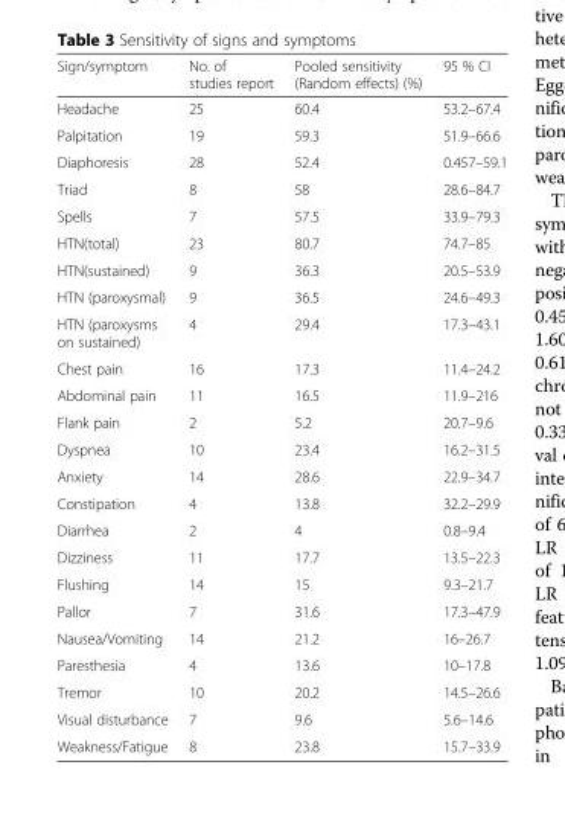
<table><thead><tr><td>Sign/symptom</td><td>No. of studies report</td><td>Pooled sensitivity (Random effects) (%)</td><td>95 % CI</td></tr></thead><tbody><tr><td>Headache</td><td>25</td><td>60.4</td><td>53.2–67.4</td></tr><tr><td>Palpitation</td><td>19</td><td>59.3</td><td>51.9–66.6</td></tr><tr><td>Diaphoresis</td><td>28</td><td>52.4</td><td>0.457–59.1</td></tr><tr><td>Triad</td><td>8</td><td>58</td><td>28.6–84.7</td></tr><tr><td>Spells</td><td>7</td><td>57.5</td><td>33.9–79.3</td></tr><tr><td>HTN(total)</td><td>23</td><td>80.7</td><td>74.7–85</td></tr><tr><td>HTN(sustained)</td><td>9</td><td>36.3</td><td>20.5–53.9</td></tr><tr><td>HTN (paroxysmal)</td><td>9</td><td>36.5</td><td>24.6–49.3</td></tr><tr><td>HTN (paroxysms on sustained)</td><td>4</td><td>29.4</td><td>17.3–43.1</td></tr><tr><td>Chest pain</td><td>16</td><td>17.3</td><td>11.4–24.2</td></tr><tr><td>Abdominal pain</td><td>11</td><td>16.5</td><td>11.9–216</td></tr><tr><td>Flank pain</td><td>2</td><td>5.2</td><td>20.7–9.6</td></tr><tr><td>Dyspnea</td><td>10</td><td>23.4</td><td>16.2–31.5</td></tr><tr><td>Anxiety</td><td>14</td><td>28.6</td><td>22.9–34.7</td></tr><tr><td>Constipation</td><td>4</td><td>13.8</td><td>32.2–29.9</td></tr><tr><td>Diarrhea</td><td>2</td><td>4</td><td>0.8–9.4</td></tr><tr><td>Dizziness</td><td>11</td><td>17.7</td><td>13.5–22.3</td></tr><tr><td>Flushing</td><td>14</td><td>15</td><td>9.3–21.7</td></tr><tr><td>Pallor</td><td>7</td><td>31.6</td><td>17.3–47.9</td></tr><tr><td>Nausea/Vomiting</td><td>14</td><td>21.2</td><td>16–26.7</td></tr><tr><td>Paresthesia</td><td>4</td><td>13.6</td><td>10–17.8</td></tr><tr><td>Tremor</td><td>10</td><td>20.2</td><td>14.5–26.6</td></tr><tr><td>Visual disturbance</td><td>7</td><td>9.6</td><td>5.6–14.6</td></tr><tr><td>Weakness/Fatigue</td><td>8</td><td>23.8</td><td>15.7–33.9</td></tr></tbody></table>